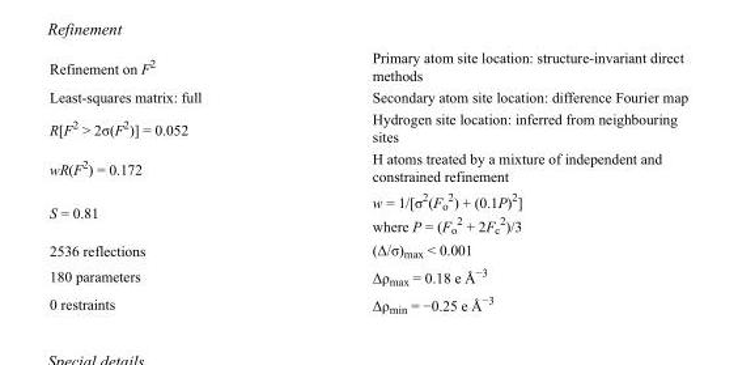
<table><tbody><tr><td>Refinement on F<sup>2</sup></td><td>Primary atom site location: structure-invariant direct methods</td></tr><tr><td>Least-squares matrix: full</td><td>Secondary atom site location: difference Fourier map</td></tr><tr><td>R[F<sup>2</sup> &gt; 2σ(F<sup>2</sup>)] = 0.052</td><td>Hydrogen site location: inferred from neighbouring sites</td></tr><tr><td>wR(F<sup>2</sup>) = 0.172</td><td>H atoms treated by a mixture of independent and constrained refinement</td></tr><tr><td>S = 0.81</td><td>w = 1/[σ<sup>2</sup>(F<sub>o</sub> <sup>2</sup>) + (0.1P)<sup>2</sup>] where P = (F<sub>o</sub> <sup>2</sup> + 2F<sub>c</sub> <sup>2</sup>)/3</td></tr><tr><td>2536 reflections</td><td>(Δ/σ)<sub>max</sub> &lt; 0.001</td></tr><tr><td>180 parameters</td><td>Δρ<sub>max</sub> = 0.18 e Å<sup>−3</sup></td></tr><tr><td>0 restraints</td><td>Δρ<sub>min</sub> = −0.25 e Å<sup>−3</sup></td></tr></tbody></table>